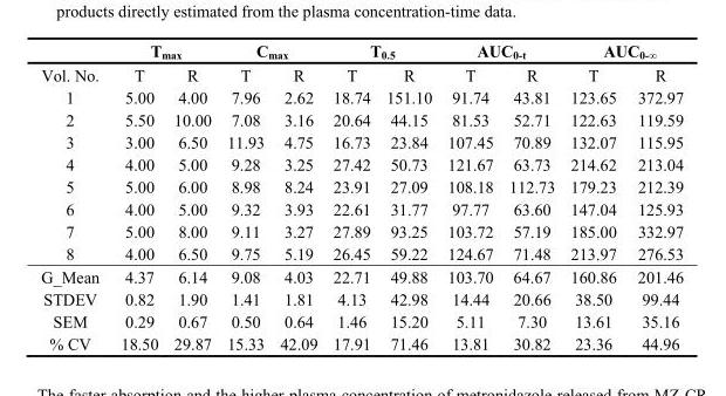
<table><thead><tr><td rowspan="2">Vol. No.</td><td colspan="2">T<sub>max</sub></td><td colspan="2">C<sub>max</sub></td><td colspan="2">T<sub>0.5</sub></td><td colspan="2">AUC<sub>0-t</sub></td><td colspan="2">AUC<sub>0-∞</sub></td></tr><tr><td>T</td><td>R</td><td>T</td><td>R</td><td>T</td><td>R</td><td>T</td><td>R</td><td>T</td><td>R</td></tr></thead><tbody><tr><td>1</td><td>5.00</td><td>4.00</td><td>7.96</td><td>2.62</td><td>18.74</td><td>151.10</td><td>91.74</td><td>43.81</td><td>123.65</td><td>372.97</td></tr><tr><td>2</td><td>5.50</td><td>10.00</td><td>7.08</td><td>3.16</td><td>20.64</td><td>44.15</td><td>81.53</td><td>52.71</td><td>122.63</td><td>119.59</td></tr><tr><td>3</td><td>3.00</td><td>6.50</td><td>11.93</td><td>4.75</td><td>16.73</td><td>23.84</td><td>107.45</td><td>70.89</td><td>132.07</td><td>115.95</td></tr><tr><td>4</td><td>4.00</td><td>5.00</td><td>9.28</td><td>3.25</td><td>27.42</td><td>50.73</td><td>121.67</td><td>63.73</td><td>214.62</td><td>213.04</td></tr><tr><td>5</td><td>5.00</td><td>6.00</td><td>8.98</td><td>8.24</td><td>23.91</td><td>27.09</td><td>108.18</td><td>112.73</td><td>179.23</td><td>212.39</td></tr><tr><td>6</td><td>4.00</td><td>5.00</td><td>9.32</td><td>3.93</td><td>22.61</td><td>31.77</td><td>97.77</td><td>63.60</td><td>147.04</td><td>125.93</td></tr><tr><td>7</td><td>5.00</td><td>8.00</td><td>9.11</td><td>3.27</td><td>27.89</td><td>93.25</td><td>103.72</td><td>57.19</td><td>185.00</td><td>332.97</td></tr><tr><td>8</td><td>4.00</td><td>6.50</td><td>9.75</td><td>5.19</td><td>26.45</td><td>59.22</td><td>124.67</td><td>71.48</td><td>213.97</td><td>276.53</td></tr><tr><td>G_Mean</td><td>4.37</td><td>6.14</td><td>9.08</td><td>4.03</td><td>22.71</td><td>49.88</td><td>103.70</td><td>64.67</td><td>160.86</td><td>201.46</td></tr><tr><td>STDEV</td><td>0.82</td><td>1.90</td><td>1.41</td><td>1.81</td><td>4.13</td><td>42.98</td><td>14.44</td><td>20.66</td><td>38.50</td><td>99.44</td></tr><tr><td>SEM</td><td>0.29</td><td>0.67</td><td>0.50</td><td>0.64</td><td>1.46</td><td>15.20</td><td>5.11</td><td>7.30</td><td>13.61</td><td>35.16</td></tr><tr><td>% CV</td><td>18.50</td><td>29.87</td><td>15.33</td><td>42.09</td><td>17.91</td><td>71.46</td><td>13.81</td><td>30.82</td><td>23.36</td><td>44.96</td></tr></tbody></table>